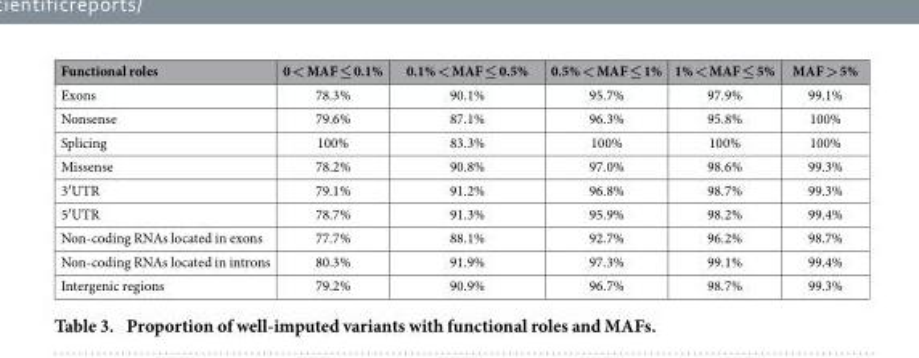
<table><thead><tr><td>Functional roles</td><td>0 &lt; MAF ≤ 0.1%</td><td>0.1% &lt; MAF ≤ 0.5%</td><td>0.5% &lt; MAF ≤ 1%</td><td>1% &lt; MAF ≤ 5%</td><td>MAF &gt; 5%</td></tr></thead><tbody><tr><td>Exons</td><td>78.3%</td><td>90.1%</td><td>95.7%</td><td>97.9%</td><td>99.1%</td></tr><tr><td>Nonsense</td><td>79.6%</td><td>87.1%</td><td>96.3%</td><td>95.8%</td><td>100%</td></tr><tr><td>Splicing</td><td>100%</td><td>83.3%</td><td>100%</td><td>100%</td><td>100%</td></tr><tr><td>Missense</td><td>78.2%</td><td>90.8%</td><td>97.0%</td><td>98.6%</td><td>99.3%</td></tr><tr><td>3′UTR</td><td>79.1%</td><td>91.2%</td><td>96.8%</td><td>98.7%</td><td>99.3%</td></tr><tr><td>5′UTR</td><td>78.7%</td><td>91.3%</td><td>95.9%</td><td>98.2%</td><td>99.4%</td></tr><tr><td>Non-coding RNAs located in exons</td><td>77.7%</td><td>88.1%</td><td>92.7%</td><td>96.2%</td><td>98.7%</td></tr><tr><td>Non-coding RNAs located in introns</td><td>80.3%</td><td>91.9%</td><td>97.3%</td><td>99.1%</td><td>99.4%</td></tr><tr><td>Intergenic regions</td><td>79.2%</td><td>90.9%</td><td>96.7%</td><td>98.7%</td><td>99.3%</td></tr></tbody></table>